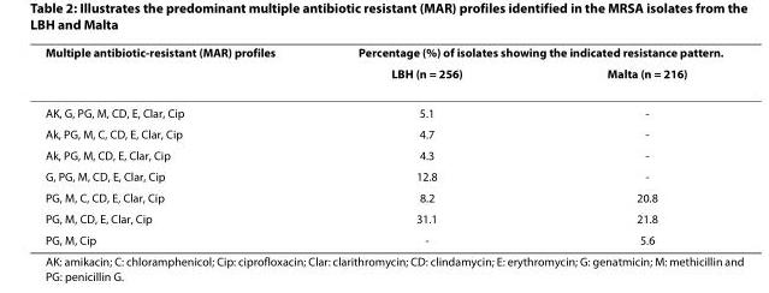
<table><thead><tr><td rowspan="2">Multiple antibiotic-resistant (MAR) profiles</td><td colspan="2">Percentage (%) of isolates showing the indicated resistance pattern.</td></tr><tr><td>LBH (n = 256)</td><td>Malta (n = 216)</td></tr></thead><tbody><tr><td>AK, G, PG, M, CD, E, Clar, Cip</td><td>5.1</td><td>-</td></tr><tr><td>Ak, PG, M, C, CD, E, Clar, Cip</td><td>4.7</td><td>-</td></tr><tr><td>Ak, PG, M, CD, E, Clar, Cip</td><td>4.3</td><td>-</td></tr><tr><td>G, PG, M, CD, E, Clar, Cip</td><td>12.8</td><td>-</td></tr><tr><td>PG, M, C, CD, E, Clar, Cip</td><td>8.2</td><td>20.8</td></tr><tr><td>PG, M, CD, E, Clar, Cip</td><td>31.1</td><td>21.8</td></tr><tr><td>PG, M, Cip</td><td>-</td><td>5.6</td></tr></tbody></table>